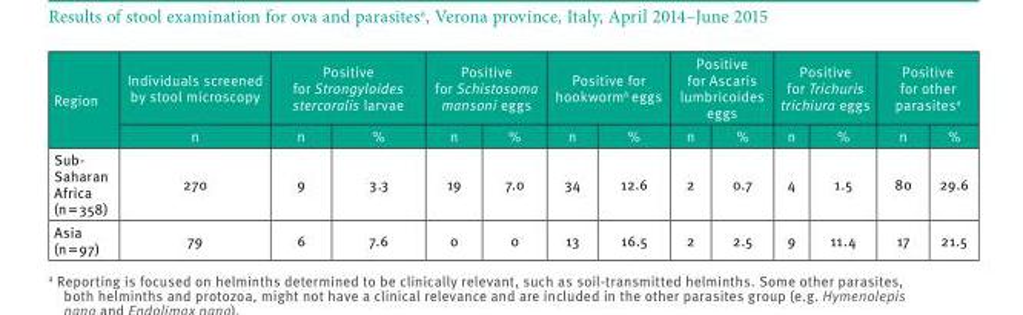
<table><thead><tr><td rowspan="2">Region</td><td rowspan="2">Individuals screened by stool microscopy n</td><td colspan="2">Positive for Strongyloides stercoralis larvae</td><td colspan="2">Positive for Schistosoma mansoni eggs</td><td colspan="2">Positive for hookworm<sup>b</sup> eggs</td><td colspan="2">Positive for Ascaris lumbricoides eggs</td><td colspan="2">Positive for Trichuris trichiura eggs</td><td colspan="2">Positive for other parasites<sup>a</sup></td></tr><tr><td>n</td><td>%</td><td>n</td><td>%</td><td>n</td><td>%</td><td>n</td><td>%</td><td>n</td><td>%</td><td>n</td><td>%</td></tr></thead><tbody><tr><td>Sub- Saharan Africa (n = 358)</td><td>270</td><td>9</td><td>3.3</td><td>19</td><td>7.0</td><td>34</td><td>12.6</td><td>2</td><td>0.7</td><td>4</td><td>1.5</td><td>80</td><td>29.6</td></tr><tr><td>Asia (n = 97)</td><td>79</td><td>6</td><td>7.6</td><td>0</td><td>0</td><td>13</td><td>16.5</td><td>2</td><td>2.5</td><td>9</td><td>11.4</td><td>17</td><td>21.5</td></tr></tbody></table>